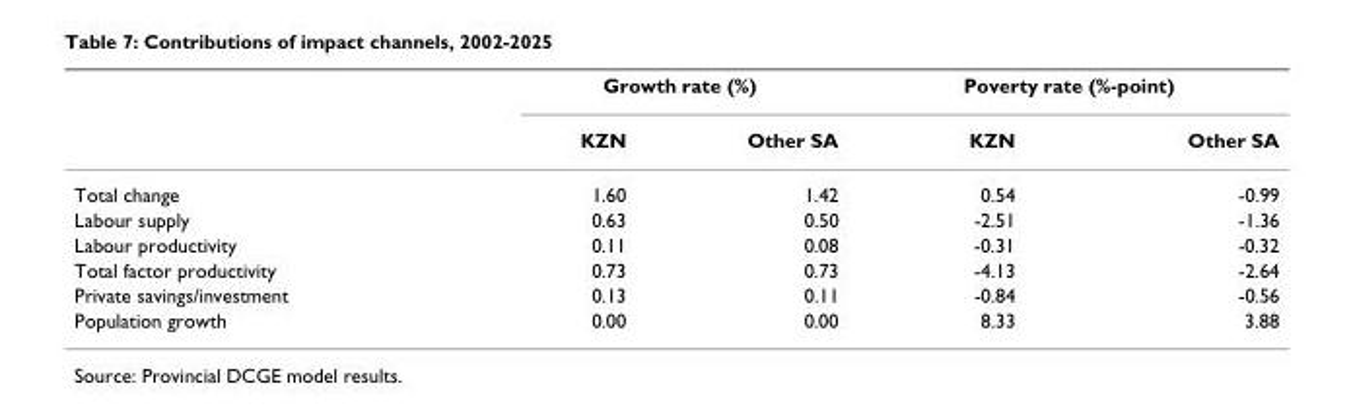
<table><thead><tr><td rowspan="2"></td><td colspan="2">Growth rate (%)</td><td colspan="2">Poverty rate (%-point)</td></tr><tr><td>KZN</td><td>Other SA</td><td>KZN</td><td>Other SA</td></tr></thead><tbody><tr><td>Total change</td><td>1.60</td><td>1.42</td><td>0.54</td><td>-0.99</td></tr><tr><td>Labour supply</td><td>0.63</td><td>0.50</td><td>-2.51</td><td>-1.36</td></tr><tr><td>Labour productivity</td><td>0.11</td><td>0.08</td><td>-0.31</td><td>-0.32</td></tr><tr><td>Total factor productivity</td><td>0.73</td><td>0.73</td><td>-4.13</td><td>-2.64</td></tr><tr><td>Private savings/investment</td><td>0.13</td><td>0.11</td><td>-0.84</td><td>-0.56</td></tr><tr><td>Population growth</td><td>0.00</td><td>0.00</td><td>8.33</td><td>3.88</td></tr></tbody></table>